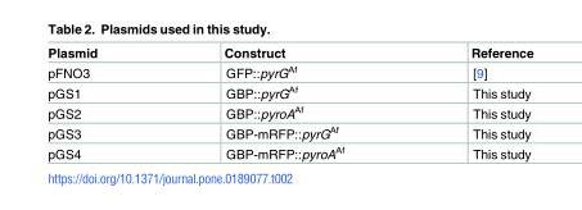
<table><thead><tr><td>Plasmid</td><td>Construct</td><td>Reference</td></tr></thead><tbody><tr><td>pFNO3</td><td>GFP::pyrG<sup>Af</sup></td><td>[9]</td></tr><tr><td>pGS1</td><td>GBP::pyrG<sup>Af</sup></td><td>This study</td></tr><tr><td>pGS2</td><td>GBP::pyroA<sup>Af</sup></td><td>This study</td></tr><tr><td>pGS3</td><td>GBP-mRFP::pyrG<sup>Af</sup></td><td>This study</td></tr><tr><td>pGS4</td><td>GBP-mRFP::pyroA<sup>Af</sup></td><td>This study</td></tr></tbody></table>